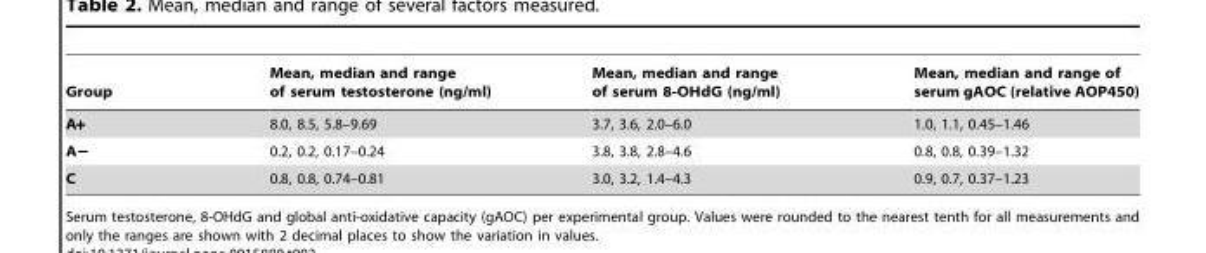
<table><thead><tr><td>Group</td><td>Mean, median and range of serum testosterone (ng/ml)</td><td>Mean, median and range of serum 8-OHdG (ng/ml)</td><td>Mean, median and range of serum gAOC (relative AOP450)</td></tr></thead><tbody><tr><td>A+</td><td>8.0, 8.5, 5.8–9.69</td><td>3.7, 3.6, 2.0–6.0</td><td>1.0, 1.1, 0.45–1.46</td></tr><tr><td>A−</td><td>0.2, 0.2, 0.17–0.24</td><td>3.8, 3.8, 2.8–4.6</td><td>0.8, 0.8, 0.39–1.32</td></tr><tr><td>C</td><td>0.8, 0.8, 0.74–0.81</td><td>3.0, 3.2, 1.4–4.3</td><td>0.9, 0.7, 0.37–1.23</td></tr></tbody></table>